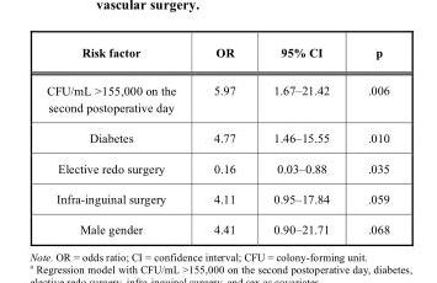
<table><thead><tr><td>Risk factor</td><td>OR</td><td>95% CI</td><td>p</td></tr></thead><tbody><tr><td>CFU/mL &gt;155,000 on the second postoperative day</td><td>5.97</td><td>1.67–21.42</td><td>.006</td></tr><tr><td>Diabetes</td><td>4.77</td><td>1.46–15.55</td><td>.010</td></tr><tr><td>Elective redo surgery</td><td>0.16</td><td>0.03–0.88</td><td>.035</td></tr><tr><td>Infra-inguinal surgery</td><td>4.11</td><td>0.95–17.84</td><td>.059</td></tr><tr><td>Male gender</td><td>4.41</td><td>0.90–21.71</td><td>.068</td></tr></tbody></table>